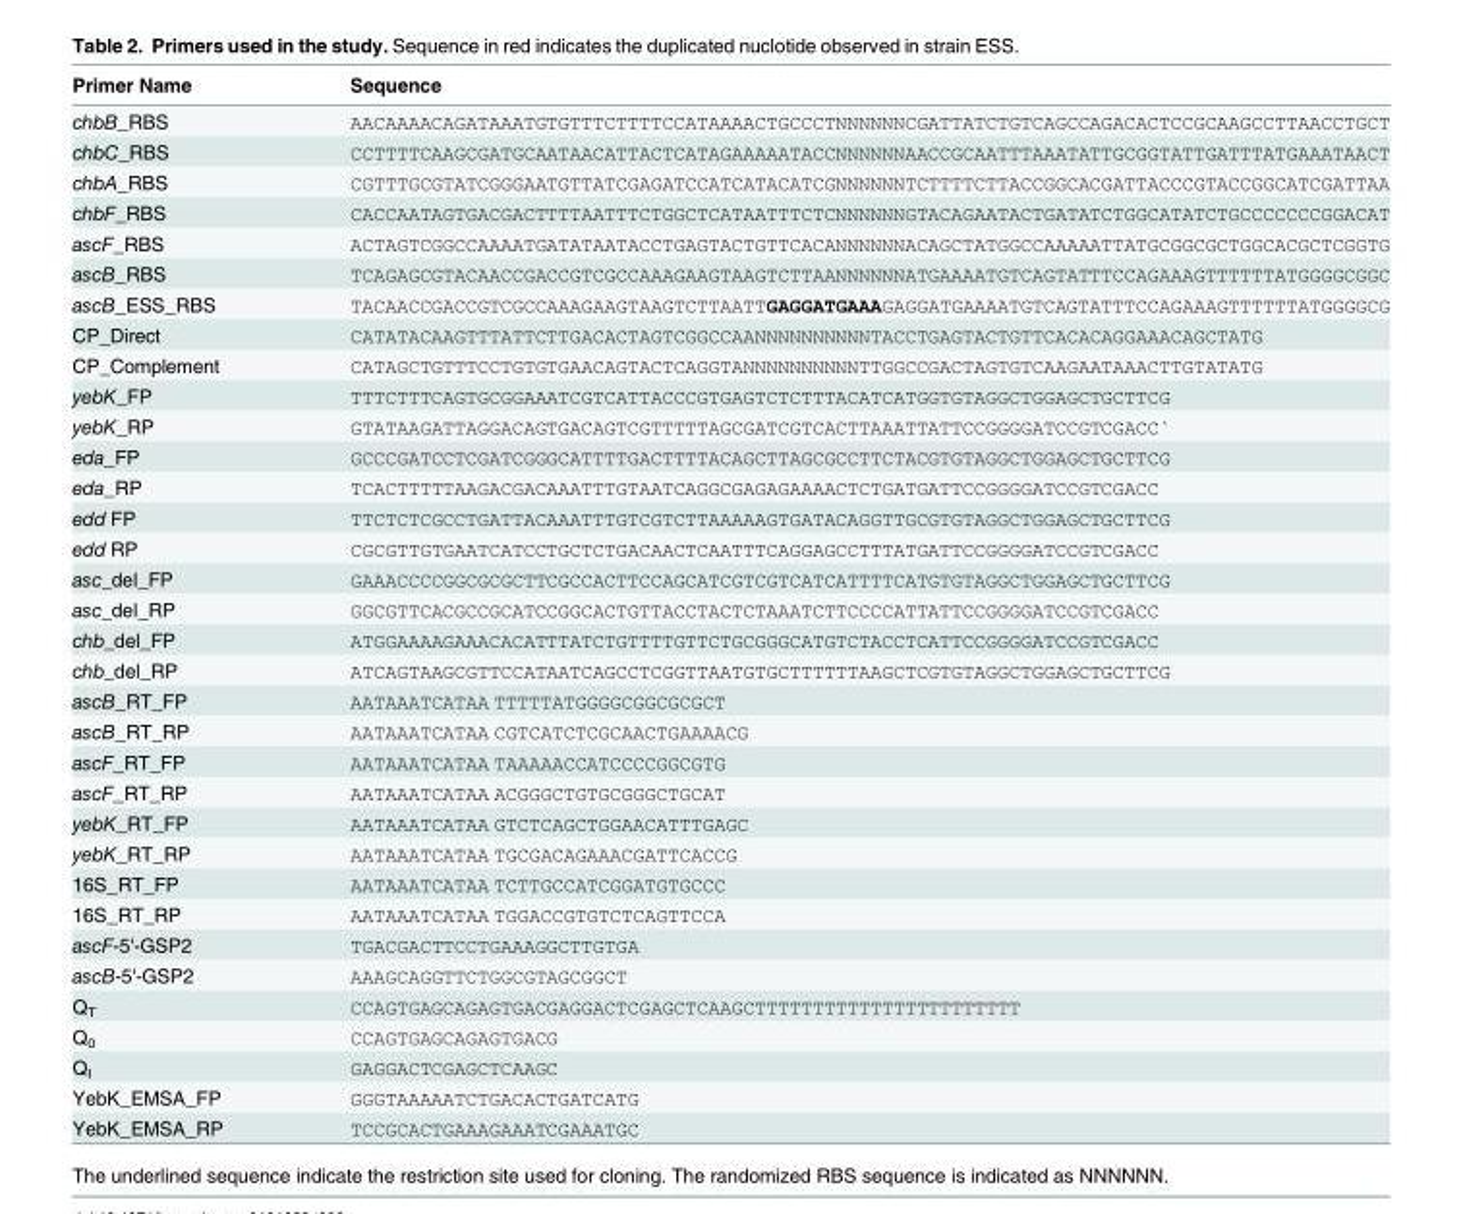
<table><thead><tr><td>Primer Name</td><td>Sequence</td></tr></thead><tbody><tr><td>chbB_RBS</td><td>AACAAAACAGATAAATGTGTTTCTTTTCCATAAAACTGCCCTNNNNNNCGATTATCTGTCAGCCAGACACTCCGCAAGCCTTAACCTGCT</td></tr><tr><td>chbC_RBS</td><td>CCTTTTCAAGCGATGCAATAACATTACTCATAGAAAAATACCNNNNNNAACCGCAATTTAAATATTGCGGTATTGATTTATGAAATAACT</td></tr><tr><td>chbA_RBS</td><td>CGTTTGCGTATCGGGAATGTTATCGAGATCCATCATACATCGNNNNNNTCTTTTCTTACCGGCACGATTACCCGTACCGGCATCGATTAA</td></tr><tr><td>chbF_RBS</td><td>CACCAATAGTGACGACTTTTAATTTCTGGCTCATAATTTCTCNNNNNNGTACAGAATACTGATATCTGGCATATCTGCCCCCCCGGACAT</td></tr><tr><td>ascF_RBS</td><td>ACTAGTCGGCCAAAATGATATAATACCTGAGTACTGTTCACANNNNNNACAGCTATGGCCAAAAATTATGCGGCGCTGGCACGCTCGGTG</td></tr><tr><td>ascB_RBS</td><td>TCAGAGCGTACAACCGACCGTCGCCAAAGAAGTAAGTCTTAANNNNNNATGAAAATGTCAGTATTTCCAGAAAGTTTTTTATGGGGCGGC</td></tr><tr><td>ascB_ESS_RBS</td><td>TACAACCGACCGTCGCCAAAGAAGTAAGTCTTAATTGAGGATGAAAGAGGATGAAAATGTCAGTATTTCCAGAAAGTTTTTTATGGGGCG</td></tr><tr><td>CP_Direct</td><td>CATATACAAGTTTATTCTTGACACTAGTCGGCCAANNNNNNNNNNTACCTGAGTACTGTTCACACAGGAAACAGCTATG</td></tr><tr><td>CP_Complement</td><td>CATAGCTGTTTCCTGTGTGAACAGTACTCAGGTANNNNNNNNNNTTGGCCGACTAGTGTCAAGAATAAACTTGTATATG</td></tr><tr><td>yebK_FP</td><td>TTTCTTTCAGTGCGGAAATCGTCATTACCCGTGAGTCTCTTTACATCATGGTGTAGGCTGGAGCTGCTTCG</td></tr><tr><td>yebK_RP</td><td>GTATAAGATTAGGACAGTGACAGTCGTTTTTAGCGATCGTCACTTAAATTATTCCGGGGATCCGTCGACC`</td></tr><tr><td>eda_FP</td><td>GCCCGATCCTCGATCGGGCATTTTGACTTTTACAGCTTAGCGCCTTCTACGTGTAGGCTGGAGCTGCTTCG</td></tr><tr><td>eda_RP</td><td>TCACTTTTTAAGACGACAAATTTGTAATCAGGCGAGAGAAAACTCTGATGATTCCGGGGATCCGTCGACC</td></tr><tr><td>edd FP</td><td>TTCTCTCGCCTGATTACAAATTTGTCGTCTTAAAAAGTGATACAGGTTGCGTGTAGGCTGGAGCTGCTTCG</td></tr><tr><td>edd RP</td><td>CGCGTTGTGAATCATCCTGCTCTGACAACTCAATTTCAGGAGCCTTTATGATTCCGGGGATCCGTCGACC</td></tr><tr><td>asc_del_FP</td><td>GAAACCCCGGCGCGCTTCGCCACTTCCAGCATCGTCGTCATCATTTTCATGTGTAGGCTGGAGCTGCTTCG</td></tr><tr><td>asc_del_RP</td><td>GGCGTTCACGCCGCATCCGGCACTGTTACCTACTCTAAATCTTCCCCATTATTCCGGGGATCCGTCGACC</td></tr><tr><td>chb_del_FP</td><td>ATGGAAAAGAAACACATTTATCTGTTTTGTTCTGCGGGCATGTCTACCTCATTCCGGGGATCCGTCGACC</td></tr><tr><td>chb_del_RP</td><td>ATCAGTAAGCGTTCCATAATCAGCCTCGGTTAATGTGCTTTTTTAAGCTCGTGTAGGCTGGAGCTGCTTCG</td></tr><tr><td>ascB_RT_FP</td><td>AATAAATCATAA TTTTTATGGGGCGGCGCGCT</td></tr><tr><td>ascB_RT_RP</td><td>AATAAATCATAA CGTCATCTCGCAACTGAAAACG</td></tr><tr><td>ascF_RT_FP</td><td>AATAAATCATAA TAAAAACCATCCCCGGCGTG</td></tr><tr><td>ascF_RT_RP</td><td>AATAAATCATAA ACGGGCTGTGCGGGCTGCAT</td></tr><tr><td>yebK_RT_FP</td><td>AATAAATCATAA GTCTCAGCTGGAACATTTGAGC</td></tr><tr><td>yebK_RT_RP</td><td>AATAAATCATAA TGCGACAGAAACGATTCACCG</td></tr><tr><td>16S_RT_FP</td><td>AATAAATCATAA TCTTGCCATCGGATGTGCCC</td></tr><tr><td>16S_RT_RP</td><td>AATAAATCATAA TGGACCGTGTCTCAGTTCCA</td></tr><tr><td>ascF-5&#x27;-GSP2</td><td>TGACGACTTCCTGAAAGGCTTGTGA</td></tr><tr><td>ascB-5&#x27;-GSP2</td><td>AAAGCAGGTTCTGGCGTAGCGGCT</td></tr><tr><td>Q<sub>T</sub></td><td>CCAGTGAGCAGAGTGACGAGGACTCGAGCTCAAGCTTTTTTTTTTTTTTTTTTTTTTT</td></tr><tr><td>Q<sub>0</sub></td><td>CCAGTGAGCAGAGTGACG</td></tr><tr><td>Q<sub>I</sub></td><td>GAGGACTCGAGCTCAAGC</td></tr><tr><td>YebK_EMSA_FP</td><td>GGGTAAAAATCTGACACTGATCATG</td></tr><tr><td>YebK_EMSA_RP</td><td>TCCGCACTGAAAGAAATCGAAATGC</td></tr></tbody></table>